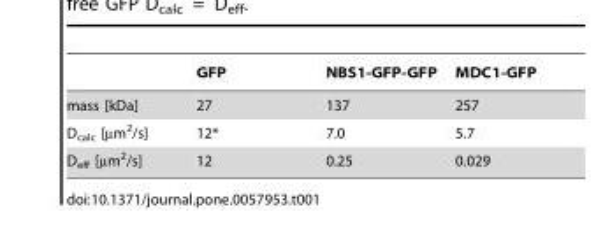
<table><thead><tr><td></td><td>GFP</td><td>NBS1-GFP-GFP</td><td>MDC1-GFP</td></tr></thead><tbody><tr><td>mass [kDa]</td><td>27</td><td>137</td><td>257</td></tr><tr><td>D<sub>calc</sub> [µm<sup>2</sup>/s]</td><td>12*</td><td>7.0</td><td>5.7</td></tr><tr><td>D<sub>eff</sub> [µm<sup>2</sup>/s]</td><td>12</td><td>0.25</td><td>0.029</td></tr></tbody></table>